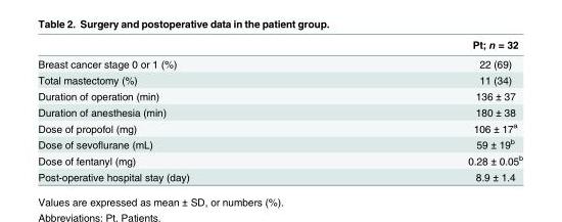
<table><thead><tr><td></td><td>Pt; n = 32</td></tr></thead><tbody><tr><td>Breast cancer stage 0 or 1 (%)</td><td>22 (69)</td></tr><tr><td>Total mastectomy (%)</td><td>11 (34)</td></tr><tr><td>Duration of operation (min)</td><td>136 ± 37</td></tr><tr><td>Duration of anesthesia (min)</td><td>180 ± 38</td></tr><tr><td>Dose of propofol (mg)</td><td>106 ± 17<sup>a</sup></td></tr><tr><td>Dose of sevoflurane (mL)</td><td>59 ± 19<sup>b</sup></td></tr><tr><td>Dose of fentanyl (mg)</td><td>0.28 ± 0.05<sup>b</sup></td></tr><tr><td>Post-operative hospital stay (day)</td><td>8.9 ± 1.4</td></tr></tbody></table>